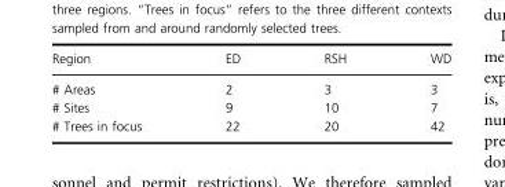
<table><thead><tr><td>Region</td><td>ED</td><td>RSH</td><td>WD</td></tr></thead><tbody><tr><td># Areas</td><td>2</td><td>3</td><td>3</td></tr><tr><td># Sites</td><td>9</td><td>10</td><td>7</td></tr><tr><td># Trees in focus</td><td>22</td><td>20</td><td>42</td></tr></tbody></table>